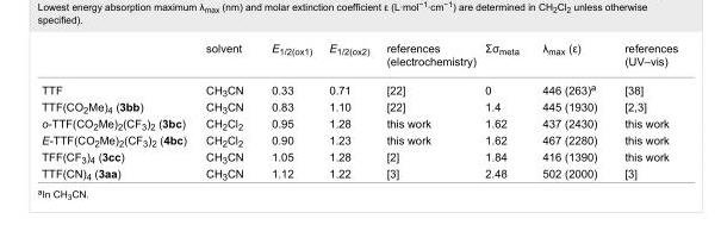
<table><thead><tr><td></td><td>solvent</td><td>E<sub>1/2(ox1)</sub></td><td>E<sub>1/2(ox2)</sub></td><td>references (electrochemistry)</td><td>Σσ<sub>meta</sub></td><td>λ<sub>max</sub> (ε)</td><td>references (UV–vis)</td></tr></thead><tbody><tr><td>TTF</td><td>CH<sub>3</sub>CN</td><td>0.33</td><td>0.71</td><td>[22]</td><td>0</td><td>446 (263)<sup>a</sup></td><td>[38]</td></tr><tr><td>TTF(CO<sub>2</sub>Me)<sub>4</sub> (3bb)</td><td>CH<sub>3</sub>CN</td><td>0.83</td><td>1.10</td><td>[22]</td><td>1.4</td><td>445 (1930)</td><td>[2–3]</td></tr><tr><td>o-TTF(CO<sub>2</sub>Me)<sub>2</sub>(CF<sub>3</sub>)<sub>2</sub> (3bc)</td><td>CH<sub>2</sub>Cl<sub>2</sub></td><td>0.95</td><td>1.28</td><td>this work</td><td>1.62</td><td>437 (2430)</td><td>this work</td></tr><tr><td>E-TTF(CO<sub>2</sub>Me)<sub>2</sub>(CF<sub>3</sub>)<sub>2</sub> (4bc)</td><td>CH<sub>2</sub>Cl<sub>2</sub></td><td>0.90</td><td>1.23</td><td>this work</td><td>1.62</td><td>467 (2280)</td><td>this work</td></tr><tr><td>TFF(CF<sub>3</sub>)<sub>4</sub> (3cc)</td><td>CH<sub>3</sub>CN</td><td>1.05</td><td>1.28</td><td>[2]</td><td>1.84</td><td>416 (1390)</td><td>this work</td></tr><tr><td>TTF(CN)<sub>4</sub> (3aa)</td><td>CH<sub>3</sub>CN</td><td>1.12</td><td>1.22</td><td>[3]</td><td>2.48</td><td>502 (2000)</td><td>[3]</td></tr></tbody></table>